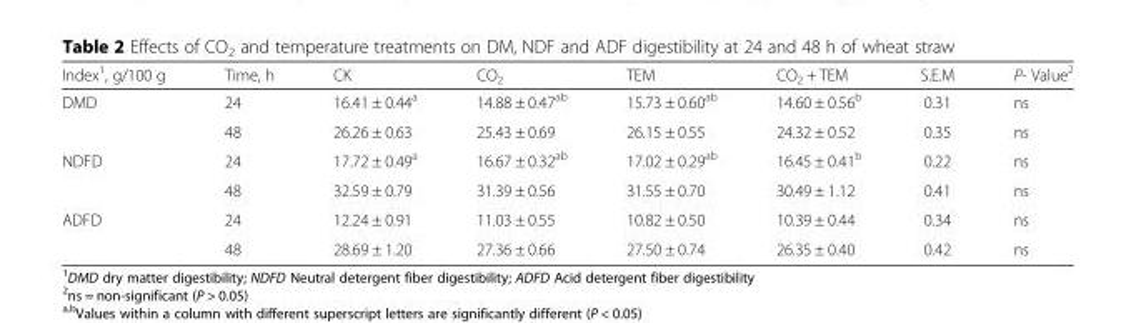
<table><thead><tr><td>Index<sup>1</sup>, g/100 g</td><td>Time, h</td><td>CK</td><td>CO<sub>2</sub></td><td>TEM</td><td>CO<sub>2</sub> + TEM</td><td>S.E.M</td><td>P- Value<sup>2</sup></td></tr></thead><tbody><tr><td rowspan="2">DMD</td><td>24</td><td>16.41 ± 0.44<sup>a</sup></td><td>14.88 ± 0.47<sup>ab</sup></td><td>15.73 ± 0.60<sup>ab</sup></td><td>14.60 ± 0.56<sup>b</sup></td><td>0.31</td><td>ns</td></tr><tr><td>48</td><td>26.26 ± 0.63</td><td>25.43 ± 0.69</td><td>26.15 ± 0.55</td><td>24.32 ± 0.52</td><td>0.35</td><td>ns</td></tr><tr><td rowspan="2">NDFD</td><td>24</td><td>17.72 ± 0.49<sup>a</sup></td><td>16.67 ± 0.32<sup>ab</sup></td><td>17.02 ± 0.29<sup>ab</sup></td><td>16.45 ± 0.41<sup>b</sup></td><td>0.22</td><td>ns</td></tr><tr><td>48</td><td>32.59 ± 0.79</td><td>31.39 ± 0.56</td><td>31.55 ± 0.70</td><td>30.49 ± 1.12</td><td>0.41</td><td>ns</td></tr><tr><td rowspan="2">ADFD</td><td>24</td><td>12.24 ± 0.91</td><td>11.03 ± 0.55</td><td>10.82 ± 0.50</td><td>10.39 ± 0.44</td><td>0.34</td><td>ns</td></tr><tr><td>48</td><td>28.69 ± 1.20</td><td>27.36 ± 0.66</td><td>27.50 ± 0.74</td><td>26.35 ± 0.40</td><td>0.42</td><td>ns</td></tr></tbody></table>